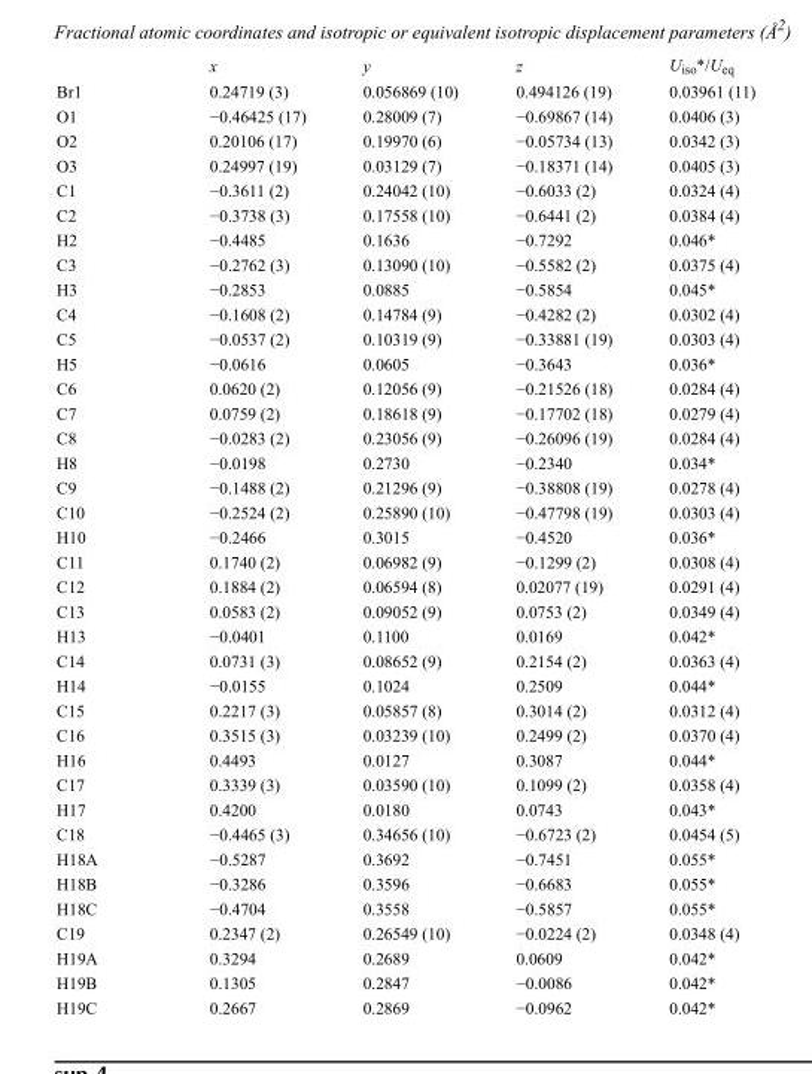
<table><thead><tr><td></td><td>x</td><td>y</td><td>z</td><td>U<sub>iso</sub>*/U<sub>eq</sub></td></tr></thead><tbody><tr><td>Br1</td><td>0.24719 (3)</td><td>0.056869 (10)</td><td>0.494126 (19)</td><td>0.03961 (11)</td></tr><tr><td>O1</td><td>−0.46425 (17)</td><td>0.28009 (7)</td><td>−0.69867 (14)</td><td>0.0406 (3)</td></tr><tr><td>O2</td><td>0.20106 (17)</td><td>0.19970 (6)</td><td>−0.05734 (13)</td><td>0.0342 (3)</td></tr><tr><td>O3</td><td>0.24997 (19)</td><td>0.03129 (7)</td><td>−0.18371 (14)</td><td>0.0405 (3)</td></tr><tr><td>C1</td><td>−0.3611 (2)</td><td>0.24042 (10)</td><td>−0.6033 (2)</td><td>0.0324 (4)</td></tr><tr><td>C2</td><td>−0.3738 (3)</td><td>0.17558 (10)</td><td>−0.6441 (2)</td><td>0.0384 (4)</td></tr><tr><td>H2</td><td>−0.4485</td><td>0.1636</td><td>−0.7292</td><td>0.046*</td></tr><tr><td>C3</td><td>−0.2762 (3)</td><td>0.13090 (10)</td><td>−0.5582 (2)</td><td>0.0375 (4)</td></tr><tr><td>H3</td><td>−0.2853</td><td>0.0885</td><td>−0.5854</td><td>0.045*</td></tr><tr><td>C4</td><td>−0.1608 (2)</td><td>0.14784 (9)</td><td>−0.4282 (2)</td><td>0.0302 (4)</td></tr><tr><td>C5</td><td>−0.0537 (2)</td><td>0.10319 (9)</td><td>−0.33881 (19)</td><td>0.0303 (4)</td></tr><tr><td>H5</td><td>−0.0616</td><td>0.0605</td><td>−0.3643</td><td>0.036*</td></tr><tr><td>C6</td><td>0.0620 (2)</td><td>0.12056 (9)</td><td>−0.21526 (18)</td><td>0.0284 (4)</td></tr><tr><td>C7</td><td>0.0759 (2)</td><td>0.18618 (9)</td><td>−0.17702 (18)</td><td>0.0279 (4)</td></tr><tr><td>C8</td><td>−0.0283 (2)</td><td>0.23056 (9)</td><td>−0.26096 (19)</td><td>0.0284 (4)</td></tr><tr><td>H8</td><td>−0.0198</td><td>0.2730</td><td>−0.2340</td><td>0.034*</td></tr><tr><td>C9</td><td>−0.1488 (2)</td><td>0.21296 (9)</td><td>−0.38808 (19)</td><td>0.0278 (4)</td></tr><tr><td>C10</td><td>−0.2524 (2)</td><td>0.25890 (10)</td><td>−0.47798 (19)</td><td>0.0303 (4)</td></tr><tr><td>H10</td><td>−0.2466</td><td>0.3015</td><td>−0.4520</td><td>0.036*</td></tr><tr><td>C11</td><td>0.1740 (2)</td><td>0.06982 (9)</td><td>−0.1299 (2)</td><td>0.0308 (4)</td></tr><tr><td>C12</td><td>0.1884 (2)</td><td>0.06594 (8)</td><td>0.02077 (19)</td><td>0.0291 (4)</td></tr><tr><td>C13</td><td>0.0583 (2)</td><td>0.09052 (9)</td><td>0.0753 (2)</td><td>0.0349 (4)</td></tr><tr><td>H13</td><td>−0.0401</td><td>0.1100</td><td>0.0169</td><td>0.042*</td></tr><tr><td>C14</td><td>0.0731 (3)</td><td>0.08652 (9)</td><td>0.2154 (2)</td><td>0.0363 (4)</td></tr><tr><td>H14</td><td>−0.0155</td><td>0.1024</td><td>0.2509</td><td>0.044*</td></tr><tr><td>C15</td><td>0.2217 (3)</td><td>0.05857 (8)</td><td>0.3014 (2)</td><td>0.0312 (4)</td></tr><tr><td>C16</td><td>0.3515 (3)</td><td>0.03239 (10)</td><td>0.2499 (2)</td><td>0.0370 (4)</td></tr><tr><td>H16</td><td>0.4493</td><td>0.0127</td><td>0.3087</td><td>0.044*</td></tr><tr><td>C17</td><td>0.3339 (3)</td><td>0.03590 (10)</td><td>0.1099 (2)</td><td>0.0358 (4)</td></tr><tr><td>H17</td><td>0.4200</td><td>0.0180</td><td>0.0743</td><td>0.043*</td></tr><tr><td>C18</td><td>−0.4465 (3)</td><td>0.34656 (10)</td><td>−0.6723 (2)</td><td>0.0454 (5)</td></tr><tr><td>H18A</td><td>−0.5287</td><td>0.3692</td><td>−0.7451</td><td>0.055*</td></tr><tr><td>H18B</td><td>−0.3286</td><td>0.3596</td><td>−0.6683</td><td>0.055*</td></tr><tr><td>H18C</td><td>−0.4704</td><td>0.3558</td><td>−0.5857</td><td>0.055*</td></tr><tr><td>C19</td><td>0.2347 (2)</td><td>0.26549 (10)</td><td>−0.0224 (2)</td><td>0.0348 (4)</td></tr><tr><td>H19A</td><td>0.3294</td><td>0.2689</td><td>0.0609</td><td>0.042*</td></tr><tr><td>H19B</td><td>0.1305</td><td>0.2847</td><td>−0.0086</td><td>0.042*</td></tr><tr><td>H19C</td><td>0.2667</td><td>0.2869</td><td>−0.0962</td><td>0.042*</td></tr></tbody></table>